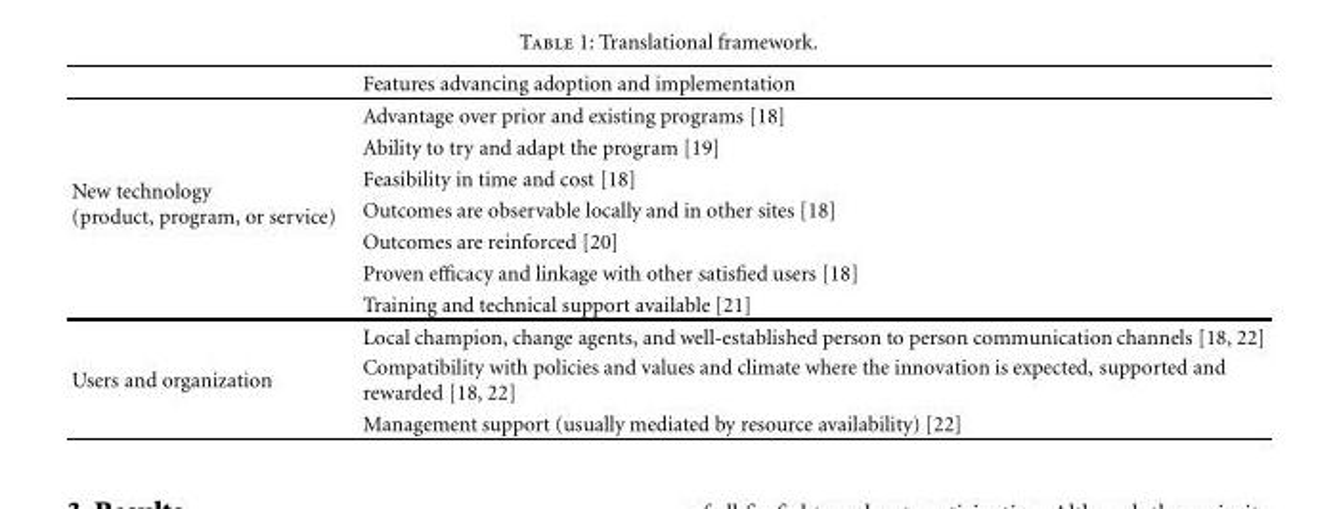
<table><thead><tr><td></td><td>Features advancing adoption and implementation</td></tr></thead><tbody><tr><td rowspan="7">New technology (product, program, or service)</td><td>Advantage over prior and existing programs [18]</td></tr><tr><td>Ability to try and adapt the program [19]</td></tr><tr><td>Feasibility in time and cost [18]</td></tr><tr><td>Outcomes are observable locally and in other sites [18]</td></tr><tr><td>Outcomes are reinforced [20]</td></tr><tr><td>Proven efficacy and linkage with other satisfied users [18]</td></tr><tr><td>Training and technical support available [21]</td></tr><tr><td rowspan="3">Users and organization</td><td>Local champion, change agents, and well-established person to person communication channels [18, 22]</td></tr><tr><td>Compatibility with policies and values and climate where the innovation is expected, supported and rewarded [18, 22]</td></tr><tr><td>Management support (usually mediated by resource availability) [22]</td></tr></tbody></table>